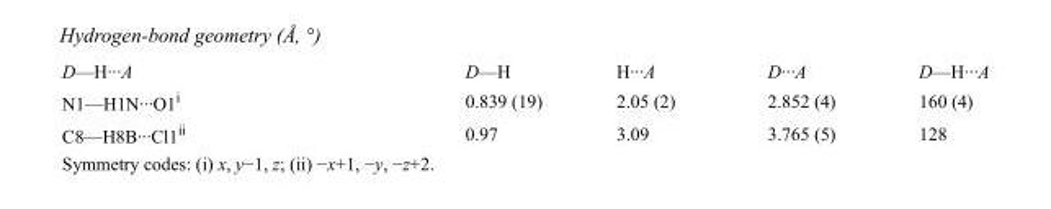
<table><tbody><tr><td>D—H···A</td><td>D—H</td><td>H···A</td><td>D···A</td><td>D—H···A</td></tr><tr><td>N1—H1N···O1<sup>i</sup></td><td>0.839 (19)</td><td>2.05 (2)</td><td>2.852 (4)</td><td>160 (4)</td></tr><tr><td>C8—H8B···Cl1<sup>ii</sup></td><td>0.97</td><td>3.09</td><td>3.765 (5)</td><td>128</td></tr></tbody></table>